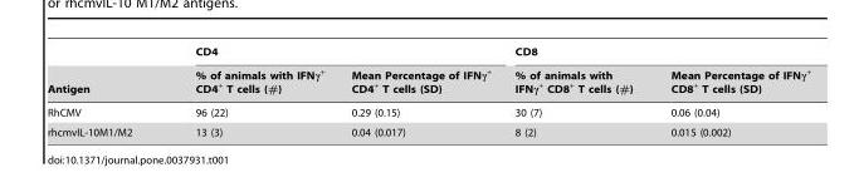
<table><thead><tr><td rowspan="2">Antigen</td><td colspan="2">CD4</td><td colspan="2">CD8</td></tr><tr><td>% of animals with IFNγ<sup>+</sup> CD4<sup>+</sup> T cells (#)</td><td>Mean Percentage of IFNγ<sup>+</sup> CD4<sup>+</sup> T cells (SD)</td><td>% of animals with IFNγ<sup>+</sup> CD8<sup>+</sup> T cells (#)</td><td>Mean Percentage of IFNγ<sup>+</sup> CD8<sup>+</sup> T cells (SD)</td></tr></thead><tbody><tr><td>RhCMV</td><td>96 (22)</td><td>0.29 (0.15)</td><td>30 (7)</td><td>0.06 (0.04)</td></tr><tr><td>rhcmvIL-10M1/M2</td><td>13 (3)</td><td>0.04 (0.017)</td><td>8 (2)</td><td>0.015 (0.002)</td></tr></tbody></table>